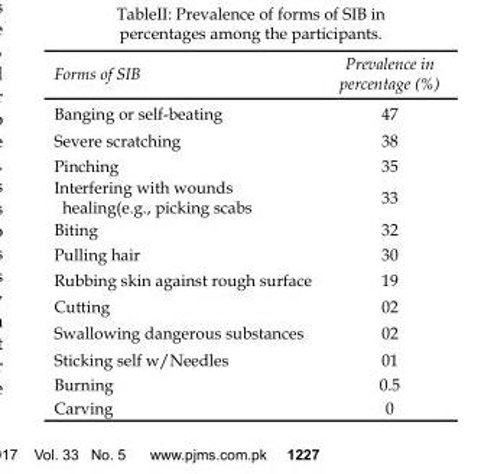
<table><thead><tr><td>Forms of SIB</td><td>Prevalence in percentage (%)</td></tr></thead><tbody><tr><td>Banging or self-beating</td><td>47</td></tr><tr><td>Severe scratching</td><td>38</td></tr><tr><td>Pinching</td><td>35</td></tr><tr><td>Interfering with wounds healing(e.g., picking scabs</td><td>33</td></tr><tr><td>Biting</td><td>32</td></tr><tr><td>Pulling hair</td><td>30</td></tr><tr><td>Rubbing skin against rough surface</td><td>19</td></tr><tr><td>Cutting</td><td>02</td></tr><tr><td>Swallowing dangerous substances</td><td>02</td></tr><tr><td>Sticking self w/Needles</td><td>01</td></tr><tr><td>Burning</td><td>0.5</td></tr><tr><td>Carving</td><td>0</td></tr></tbody></table>